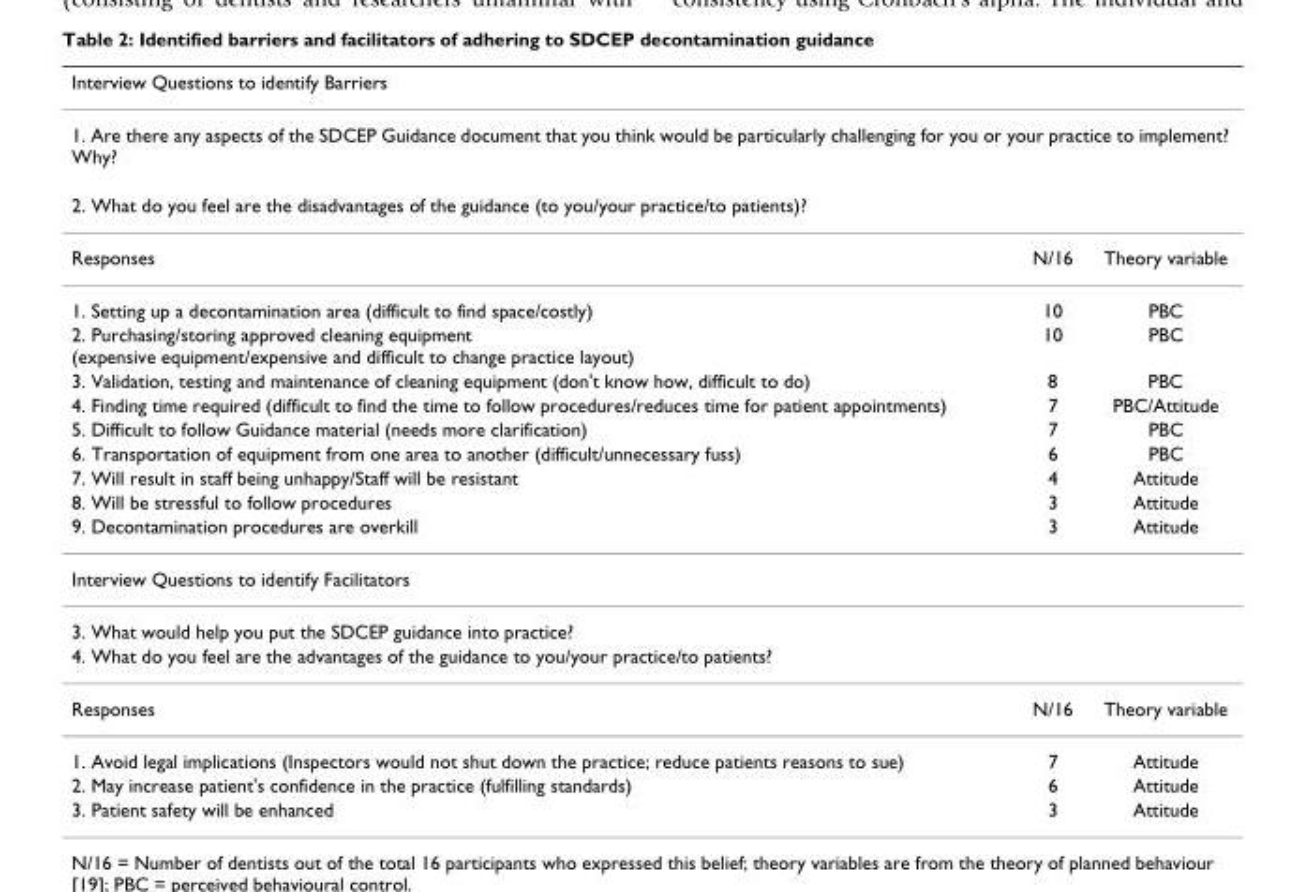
<table><thead><tr><td rowspan="3" colspan="3">Interview Questions to identify Barriers 1. Are there any aspects of the SDCEP Guidance document that you think would be particularly challenging for you or your practice to implement? Why? 2. What do you feel are the disadvantages of the guidance (to you/your practice/to patients)?</td></tr><tr></tr><tr></tr><tr><td>Responses</td><td>N/16</td><td>Theory variable</td></tr></thead><tbody><tr><td>1. Setting up a decontamination area (difficult to find space/costly)</td><td>10</td><td>PBC</td></tr><tr><td>2. Purchasing/storing approved cleaning equipment (expensive equipment/expensive and difficult to change practice layout)</td><td>10</td><td>PBC</td></tr><tr><td>3. Validation, testing and maintenance of cleaning equipment (don&#x27;t know how, difficult to do)</td><td>8</td><td>PBC</td></tr><tr><td>4. Finding time required (difficult to find the time to follow procedures/reduces time for patient appointments)</td><td>7</td><td>PBC/Attitude</td></tr><tr><td>5. Difficult to follow Guidance material (needs more clarification)</td><td>7</td><td>PBC</td></tr><tr><td>6. Transportation of equipment from one area to another (difficult/unnecessary fuss)</td><td>6</td><td>PBC</td></tr><tr><td>7. Will result in staff being unhappy/Staff will be resistant</td><td>4</td><td>Attitude</td></tr><tr><td>8. Will be stressful to follow procedures</td><td>3</td><td>Attitude</td></tr><tr><td>9. Decontamination procedures are overkill</td><td>3</td><td>Attitude</td></tr><tr><td colspan="3">Interview Questions to identify Facilitators</td></tr><tr><td colspan="3">3. What would help you put the SDCEP guidance into practice?</td></tr><tr><td colspan="3">4. What do you feel are the advantages of the guidance to you/your practice/to patients?</td></tr><tr><td>Responses</td><td>N/16</td><td>Theory variable</td></tr><tr><td>1. Avoid legal implications (Inspectors would not shut down the practice; reduce patients reasons to sue)</td><td>7</td><td>Attitude</td></tr><tr><td>2. May increase patient&#x27;s confidence in the practice (fulfilling standards)</td><td>6</td><td>Attitude</td></tr><tr><td>3. Patient safety will be enhanced</td><td>3</td><td>Attitude</td></tr></tbody></table>